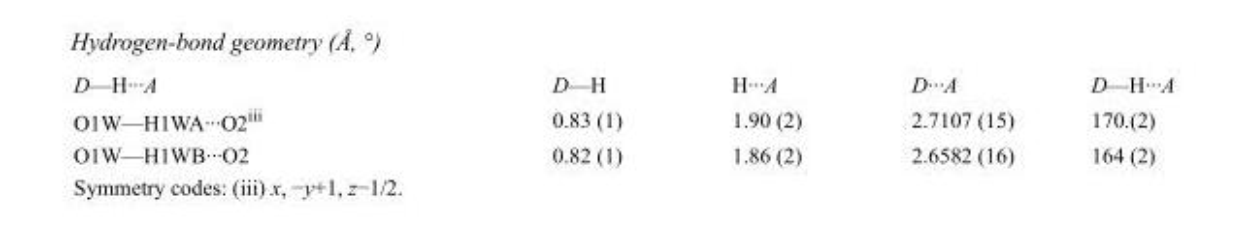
<table><tbody><tr><td>D—H···A</td><td>D—H</td><td>H···A</td><td>D···A</td><td>D—H···A</td></tr><tr><td>O1W—H1WA···O2<sup>iii</sup></td><td>0.83 (1)</td><td>1.90 (2)</td><td>2.7107 (15)</td><td>170.(2)</td></tr><tr><td>O1W—H1WB···O2</td><td>0.82 (1)</td><td>1.86 (2)</td><td>2.6582 (16)</td><td>164 (2)</td></tr></tbody></table>